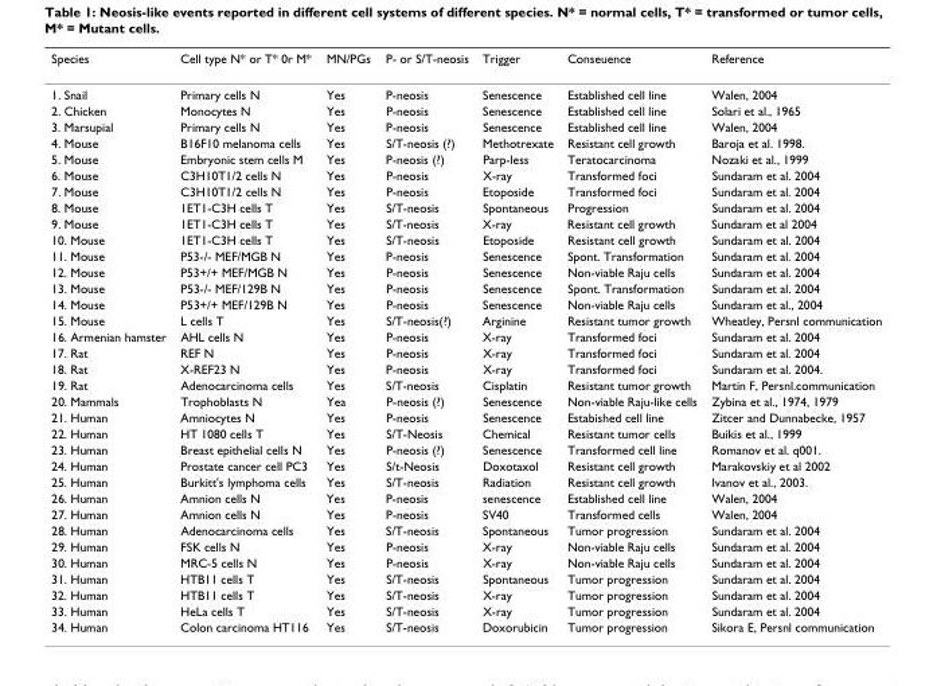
<table><thead><tr><td>Species</td><td>Cell type N* or T* 0r M*</td><td>MN/PGs</td><td>P- or S/T-neosis</td><td>Trigger</td><td>Conseuence</td><td>Reference</td></tr></thead><tbody><tr><td>1. Snail</td><td>Primary cells N</td><td>Yes</td><td>P-neosis</td><td>Senescence</td><td>Established cell line</td><td>Walen, 2004</td></tr><tr><td>2. Chicken</td><td>Monocytes N</td><td>Yes</td><td>P-neosis</td><td>Senescence</td><td>Established cell line</td><td>Solari et al., 1965</td></tr><tr><td>3. Marsupial</td><td>Primary cells N</td><td>Yes</td><td>P-neosis</td><td>Senescence</td><td>Established cell line</td><td>Walen, 2004</td></tr><tr><td>4. Mouse</td><td>B16F10 melanoma cells</td><td>Yes</td><td>S/T-neosis (?)</td><td>Methotrexate</td><td>Resistant cell growth</td><td>Baroja et al. 1998.</td></tr><tr><td>5. Mouse</td><td>Embryonic stem cells M</td><td>Yes</td><td>P-neosis (?)</td><td>Parp-less</td><td>Teratocarcinoma</td><td>Nozaki et al., 1999</td></tr><tr><td>6. Mouse</td><td>C3H10T1/2 cells N</td><td>Yes</td><td>P-neosis</td><td>X-ray</td><td>Transformed foci</td><td>Sundaram et al. 2004</td></tr><tr><td>7. Mouse</td><td>C3H10T1/2 cells N</td><td>Yes</td><td>P-neosis</td><td>Etoposide</td><td>Transformed foci</td><td>Sundaram et al. 2004</td></tr><tr><td>8. Mouse</td><td>1ET1-C3H cells T</td><td>Yes</td><td>S/T-neosis</td><td>Spontaneous</td><td>Progression</td><td>Sundaram et al. 2004</td></tr><tr><td>9. Mouse</td><td>1ET1-C3H cells T</td><td>Yes</td><td>S/T-neosis</td><td>X-ray</td><td>Resistant cell growth</td><td>Sundaram et al 2004</td></tr><tr><td>10. Mouse</td><td>1ET1-C3H cells T</td><td>Yes</td><td>S/T-neosis</td><td>Etoposide</td><td>Resistant cell growth</td><td>Sundaram et al. 2004</td></tr><tr><td>11. Mouse</td><td>P53-/- MEF/MGB N</td><td>Yes</td><td>P-neosis</td><td>Senescence</td><td>Spont. Transformation</td><td>Sundaram et al. 2004</td></tr><tr><td>12. Mouse</td><td>P53+/+ MEF/MGB N</td><td>Yes</td><td>P-neosis</td><td>Senescence</td><td>Non-viable Raju cells</td><td>Sundaram et al. 2004</td></tr><tr><td>13. Mouse</td><td>P53-/- MEF/129B N</td><td>Yes</td><td>P-neosis</td><td>Senescence</td><td>Spont. Transformation</td><td>Sundaram et al. 2004</td></tr><tr><td>14. Mouse</td><td>P53+/+ MEF/129B N</td><td>Yes</td><td>P-neosis</td><td>Senescence</td><td>Non-viable Raju cells</td><td>Sundaram et al., 2004</td></tr><tr><td>15. Mouse</td><td>L cells T</td><td>Yes</td><td>S/T-neosis(?)</td><td>Arginine</td><td>Resistant tumor growth</td><td>Wheatley, Persnl communication</td></tr><tr><td>16. Armenian hamster</td><td>AHL cells N</td><td>Yes</td><td>P-neosis</td><td>X-ray</td><td>Transformed foci</td><td>Sundaram et al. 2004</td></tr><tr><td>17. Rat</td><td>REF N</td><td>Yes</td><td>P-neosis</td><td>X-ray</td><td>Transformed foci</td><td>Sundaram et al. 2004</td></tr><tr><td>18. Rat</td><td>X-REF23 N</td><td>Yes</td><td>P-neosis</td><td>X-ray</td><td>Transformed foci</td><td>Sundaram et al. 2004.</td></tr><tr><td>19. Rat</td><td>Adenocarcinoma cells</td><td>Yes</td><td>S/T-neosis</td><td>Cisplatin</td><td>Resistant tumor growth</td><td>Martin F, Persnl.communication</td></tr><tr><td>20. Mammals</td><td>Trophoblasts N</td><td>Yea</td><td>P-neosis (?)</td><td>Senescence</td><td>Non-viable Raju-like cells</td><td>Zybina et al., 1974, 1979</td></tr><tr><td>21. Human</td><td>Amniocytes N</td><td>Yes</td><td>P-neosis</td><td>Senescence</td><td>Estabished cell line</td><td>Zitcer and Dunnabecke, 1957</td></tr><tr><td>22. Human</td><td>HT 1080 cells T</td><td>Yes</td><td>S/T-Neosis</td><td>Chemical</td><td>Resistant tumor cells</td><td>Buikis et al., 1999</td></tr><tr><td>23. Human</td><td>Breast epithelial cells N</td><td>Yes</td><td>P-neosis (?)</td><td>Senescence</td><td>Transformed cell line</td><td>Romanov et al. q001.</td></tr><tr><td>24. Human</td><td>Prostate cancer cell PC3</td><td>Yes</td><td>S/t-Neosis</td><td>Doxotaxol</td><td>Resistant cell growth</td><td>Marakovskiy et al 2002</td></tr><tr><td>25. Human</td><td>Burkitt&#x27;s lymphoma cells</td><td>Yes</td><td>S/T-neosis</td><td>Radiation</td><td>Resistant cell growth</td><td>Ivanov et al., 2003.</td></tr><tr><td>26. Human</td><td>Amnion cells N</td><td>Yes</td><td>P-neosis</td><td>senescence</td><td>Established cell line</td><td>Walen, 2004</td></tr><tr><td>27. Human</td><td>Amnion cells N</td><td>Yes</td><td>P-neosis</td><td>SV40</td><td>Transformed cells</td><td>Walen, 2004</td></tr><tr><td>28. Human</td><td>Adenocarcinoma cells</td><td>Yes</td><td>S/T-neosis</td><td>Spontaneous</td><td>Tumor progression</td><td>Sundaram et al. 2004</td></tr><tr><td>29. Human</td><td>FSK cells N</td><td>Yes</td><td>P-neosis</td><td>X-ray</td><td>Non-viable Raju cells</td><td>Sundaram et al. 2004</td></tr><tr><td>30. Human</td><td>MRC-5 cells N</td><td>Yes</td><td>P-neosis</td><td>X-ray</td><td>Non-viable Raju cells</td><td>Sundaram et al. 2004</td></tr><tr><td>31. Human</td><td>HTB11 cells T</td><td>Yes</td><td>S/T-neosis</td><td>Spontaneous</td><td>Tumor progression</td><td>Sundaram et al. 2004</td></tr><tr><td>32. Human</td><td>HTB11 cells T</td><td>Yes</td><td>S/T-neosis</td><td>X-ray</td><td>Tumor progression</td><td>Sundaram et al. 2004</td></tr><tr><td>33. Human</td><td>HeLa cells T</td><td>Yes</td><td>S/T-neosis</td><td>X-ray</td><td>Tumor progression</td><td>Sundaram et al. 2004</td></tr><tr><td>34. Human</td><td>Colon carcinoma HT116</td><td>Yes</td><td>S/T-neosis</td><td>Doxorubicin</td><td>Tumor progression</td><td>Sikora E, Persnl communication</td></tr></tbody></table>